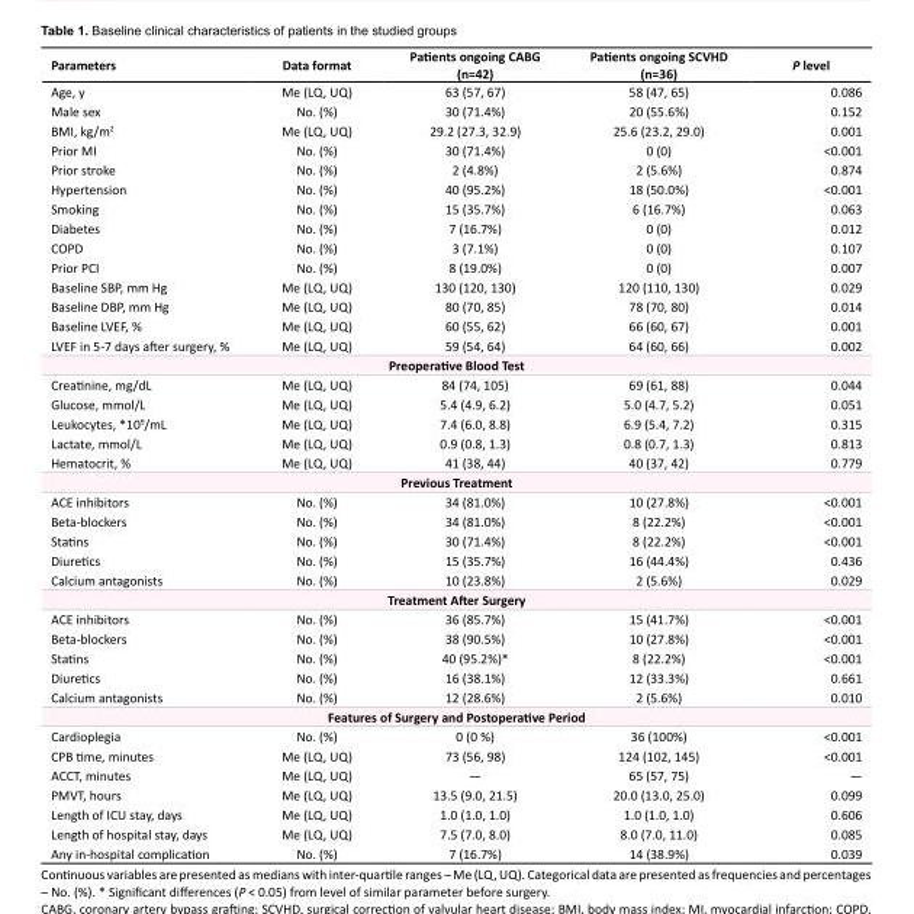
<table><tbody><tr><td>Parameters</td><td>Data format</td><td>Patients ongoing CABG (n=42)</td><td>Patients ongoing SCVHD (n=36)</td><td>P level</td></tr><tr><td>Age, y</td><td>Me (LQ, UQ)</td><td>63 (57, 67)</td><td>58 (47, 65)</td><td>0.086</td></tr><tr><td>Male sex</td><td>No. (%)</td><td>30 (71.4%)</td><td>20 (55.6%)</td><td>0.152</td></tr><tr><td>BMI, kg/m<sup>2</sup></td><td>Me (LQ, UQ)</td><td>29.2 (27.3, 32.9)</td><td>25.6 (23.2, 29.0)</td><td>0.001</td></tr><tr><td>Prior MI</td><td>No. (%)</td><td>30 (71.4%)</td><td>0 (0)</td><td>&lt;0.001</td></tr><tr><td>Prior stroke</td><td>No. (%)</td><td>2 (4.8%)</td><td>2 (5.6%)</td><td>0.874</td></tr><tr><td>Hypertension</td><td>No. (%)</td><td>40 (95.2%)</td><td>18 (50.0%)</td><td>&lt;0.001</td></tr><tr><td>Smoking</td><td>No. (%)</td><td>15 (35.7%)</td><td>6 (16.7%)</td><td>0.063</td></tr><tr><td>Diabetes</td><td>No. (%)</td><td>7 (16.7%)</td><td>0 (0)</td><td>0.012</td></tr><tr><td>COPD</td><td>No. (%)</td><td>3 (7.1%)</td><td>0 (0)</td><td>0.107</td></tr><tr><td>Prior PCI</td><td>No. (%)</td><td>8 (19.0%)</td><td>0 (0)</td><td>0.007</td></tr><tr><td>Baseline SBP, mm Hg</td><td>Me (LQ, UQ)</td><td>130 (120, 130)</td><td>120 (110, 130)</td><td>0.029</td></tr><tr><td>Baseline DBP, mm Hg</td><td>Me (LQ, UQ)</td><td>80 (70, 85)</td><td>78 (70, 80)</td><td>0.014</td></tr><tr><td>Baseline LVEF, %</td><td>Me (LQ, UQ)</td><td>60 (55, 62)</td><td>66 (60, 67)</td><td>0.001</td></tr><tr><td>LVEF in 5-7 days after surgery, %</td><td>Me (LQ, UQ)</td><td>59 (54, 64)</td><td>64 (60, 66)</td><td>0.002</td></tr><tr><td colspan="5">Preoperative Blood Test</td></tr><tr><td>Creatinine, mg/dL</td><td>Me (LQ, UQ)</td><td>84 (74, 105)</td><td>69 (61, 88)</td><td>0.044</td></tr><tr><td>Glucose, mmol/L</td><td>Me (LQ, UQ)</td><td>5.4 (4.9, 6.2)</td><td>5.0 (4.7, 5.2)</td><td>0.051</td></tr><tr><td>Leukocytes, *10<sup>9</sup>/mL</td><td>Me (LQ, UQ)</td><td>7.4 (6.0, 8.8)</td><td>6.9 (5.4, 7.2)</td><td>0.315</td></tr><tr><td>Lactate, mmol/L</td><td>Me (LQ, UQ)</td><td>0.9 (0.8, 1.3)</td><td>0.8 (0.7, 1.3)</td><td>0.813</td></tr><tr><td>Hematocrit, %</td><td>Me (LQ, UQ)</td><td>41 (38, 44)</td><td>40 (37, 42)</td><td>0.779</td></tr><tr><td colspan="5">Previous Treatment</td></tr><tr><td>ACE inhibitors</td><td>No. (%)</td><td>34 (81.0%)</td><td>10 (27.8%)</td><td>&lt;0.001</td></tr><tr><td>Beta-blockers</td><td>No. (%)</td><td>34 (81.0%)</td><td>8 (22.2%)</td><td>&lt;0.001</td></tr><tr><td>Statins</td><td>No. (%)</td><td>30 (71.4%)</td><td>8 (22.2%)</td><td>&lt;0.001</td></tr><tr><td>Diuretics</td><td>No. (%)</td><td>15 (35.7%)</td><td>16 (44.4%)</td><td>0.436</td></tr><tr><td>Calcium antagonists</td><td>No. (%)</td><td>10 (23.8%)</td><td>2 (5.6%)</td><td>0.029</td></tr><tr><td colspan="5">Treatment After Surgery</td></tr><tr><td>ACE inhibitors</td><td>No. (%)</td><td>36 (85.7%)</td><td>15 (41.7%)</td><td>&lt;0.001</td></tr><tr><td>Beta-blockers</td><td>No. (%)</td><td>38 (90.5%)</td><td>10 (27.8%)</td><td>&lt;0.001</td></tr><tr><td>Statins</td><td>No. (%)</td><td>40 (95.2%)*</td><td>8 (22.2%)</td><td>&lt;0.001</td></tr><tr><td>Diuretics</td><td>No. (%)</td><td>16 (38.1%)</td><td>12 (33.3%)</td><td>0.661</td></tr><tr><td>Calcium antagonists</td><td>No. (%)</td><td>12 (28.6%)</td><td>2 (5.6%)</td><td>0.010</td></tr><tr><td colspan="5">Features of Surgery and Postoperative Period</td></tr><tr><td>Cardioplegia</td><td>No. (%)</td><td>0 (0 %)</td><td>36 (100%)</td><td>&lt;0.001</td></tr><tr><td>CPB time, minutes</td><td>Me (LQ, UQ)</td><td>73 (56, 98)</td><td>124 (102, 145)</td><td>&lt;0.001</td></tr><tr><td>ACCT, minutes</td><td>Me (LQ, UQ)</td><td>―</td><td>65 (57, 75)</td><td>―</td></tr><tr><td>PMVT, hours</td><td>Me (LQ, UQ)</td><td>13.5 (9.0, 21.5)</td><td>20.0 (13.0, 25.0)</td><td>0.099</td></tr><tr><td>Length of ICU stay, days</td><td>Me (LQ, UQ)</td><td>1.0 (1.0, 1.0)</td><td>1.0 (1.0, 1.0)</td><td>0.606</td></tr><tr><td>Length of hospital stay, days</td><td>Me (LQ, UQ)</td><td>7.5 (7.0, 8.0)</td><td>8.0 (7.0, 11.0)</td><td>0.085</td></tr><tr><td>Any in-hospital complication</td><td>No. (%)</td><td>7 (16.7%)</td><td>14 (38.9%)</td><td>0.039</td></tr></tbody></table>